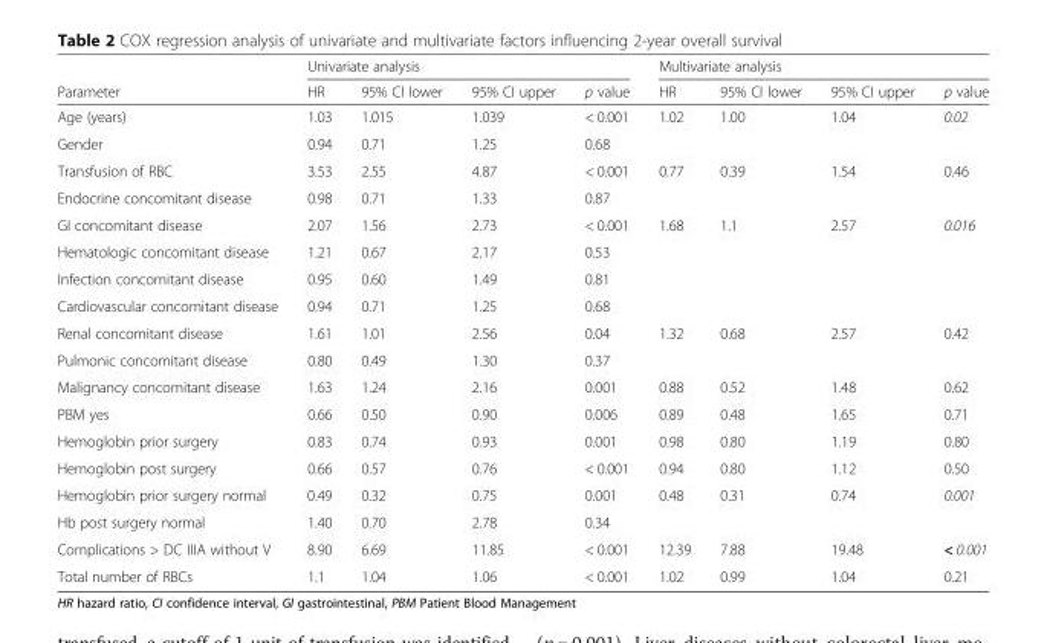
<table><thead><tr><td rowspan="2">Parameter</td><td colspan="4">Univariate analysis</td><td colspan="4">Multivariate analysis</td></tr><tr><td>HR</td><td>95% CI lower</td><td>95% CI upper</td><td>p value</td><td>HR</td><td>95% CI lower</td><td>95% CI upper</td><td>p value</td></tr></thead><tbody><tr><td>Age (years)</td><td>1.03</td><td>1.015</td><td>1.039</td><td>&lt; 0.001</td><td>1.02</td><td>1.00</td><td>1.04</td><td>0.02</td></tr><tr><td>Gender</td><td>0.94</td><td>0.71</td><td>1.25</td><td>0.68</td><td colspan="4"></td></tr><tr><td>Transfusion of RBC</td><td>3.53</td><td>2.55</td><td>4.87</td><td>&lt; 0.001</td><td>0.77</td><td>0.39</td><td>1.54</td><td>0.46</td></tr><tr><td>Endocrine concomitant disease</td><td>0.98</td><td>0.71</td><td>1.33</td><td>0.87</td><td colspan="4"></td></tr><tr><td>GI concomitant disease</td><td>2.07</td><td>1.56</td><td>2.73</td><td>&lt; 0.001</td><td>1.68</td><td>1.1</td><td>2.57</td><td>0.016</td></tr><tr><td>Hematologic concomitant disease</td><td>1.21</td><td>0.67</td><td>2.17</td><td>0.53</td><td rowspan="3" colspan="4"></td></tr><tr><td>Infection concomitant disease</td><td>0.95</td><td>0.60</td><td>1.49</td><td>0.81</td></tr><tr><td>Cardiovascular concomitant disease</td><td>0.94</td><td>0.71</td><td>1.25</td><td>0.68</td></tr><tr><td>Renal concomitant disease</td><td>1.61</td><td>1.01</td><td>2.56</td><td>0.04</td><td>1.32</td><td>0.68</td><td>2.57</td><td>0.42</td></tr><tr><td>Pulmonic concomitant disease</td><td>0.80</td><td>0.49</td><td>1.30</td><td>0.37</td><td colspan="4"></td></tr><tr><td>Malignancy concomitant disease</td><td>1.63</td><td>1.24</td><td>2.16</td><td>0.001</td><td>0.88</td><td>0.52</td><td>1.48</td><td>0.62</td></tr><tr><td>PBM yes</td><td>0.66</td><td>0.50</td><td>0.90</td><td>0.006</td><td>0.89</td><td>0.48</td><td>1.65</td><td>0.71</td></tr><tr><td>Hemoglobin prior surgery</td><td>0.83</td><td>0.74</td><td>0.93</td><td>0.001</td><td>0.98</td><td>0.80</td><td>1.19</td><td>0.80</td></tr><tr><td>Hemoglobin post surgery</td><td>0.66</td><td>0.57</td><td>0.76</td><td>&lt; 0.001</td><td>0.94</td><td>0.80</td><td>1.12</td><td>0.50</td></tr><tr><td>Hemoglobin prior surgery normal</td><td>0.49</td><td>0.32</td><td>0.75</td><td>0.001</td><td>0.48</td><td>0.31</td><td>0.74</td><td>0.001</td></tr><tr><td>Hb post surgery normal</td><td>1.40</td><td>0.70</td><td>2.78</td><td>0.34</td><td colspan="4"></td></tr><tr><td>Complications &gt; DC IIIA without V</td><td>8.90</td><td>6.69</td><td>11.85</td><td>&lt; 0.001</td><td>12.39</td><td>7.88</td><td>19.48</td><td>&lt; 0.001</td></tr><tr><td>Total number of RBCs</td><td>1.1</td><td>1.04</td><td>1.06</td><td>&lt; 0.001</td><td>1.02</td><td>0.99</td><td>1.04</td><td>0.21</td></tr></tbody></table>